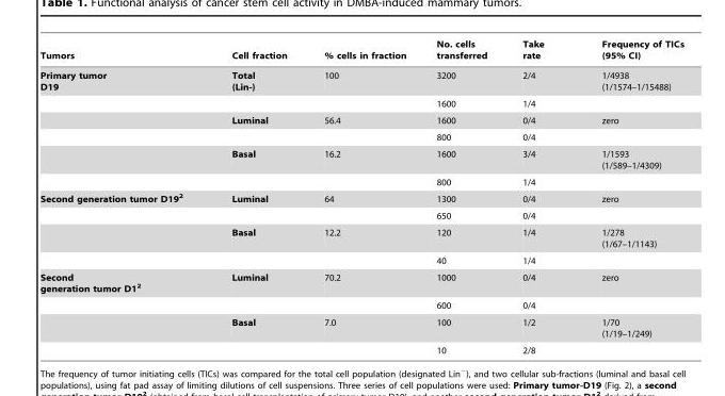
<table><thead><tr><td>Tumors</td><td>Cell fraction</td><td>% cells in fraction</td><td>No. cells transferred</td><td>Take rate</td><td>Frequency of TICs (95% CI)</td></tr></thead><tbody><tr><td rowspan="6">Primary tumor D19</td><td>Total (Lin-)</td><td>100</td><td>3200</td><td>2/4</td><td>1/4938 (1/1574–1/15488)</td></tr><tr><td></td><td></td><td>1600</td><td>1/4</td><td></td></tr><tr><td>Luminal</td><td>56.4</td><td>1600</td><td>0/4</td><td>zero</td></tr><tr><td></td><td></td><td>800</td><td>0/4</td><td></td></tr><tr><td>Basal</td><td>16.2</td><td>1600</td><td>3/4</td><td>1/1593 (1/589–1/4309)</td></tr><tr><td></td><td></td><td>800</td><td>1/4</td><td></td></tr><tr><td rowspan="4">Second generation tumor D19<sup>2</sup></td><td>Luminal</td><td>64</td><td>1300</td><td>0/4</td><td>zero</td></tr><tr><td></td><td></td><td>650</td><td>0/4</td><td></td></tr><tr><td>Basal</td><td>12.2</td><td>120</td><td>1/4</td><td>1/278 (1/67–1/1143)</td></tr><tr><td></td><td></td><td>40</td><td>1/4</td><td></td></tr><tr><td rowspan="4">Second generation tumor D1<sup>2</sup></td><td>Luminal</td><td>70.2</td><td>1000</td><td>0/4</td><td>zero</td></tr><tr><td></td><td></td><td>600</td><td>0/4</td><td></td></tr><tr><td>Basal</td><td>7.0</td><td>100</td><td>1/2</td><td>1/70 (1/19–1/249)</td></tr><tr><td></td><td></td><td>10</td><td>2/8</td><td></td></tr></tbody></table>